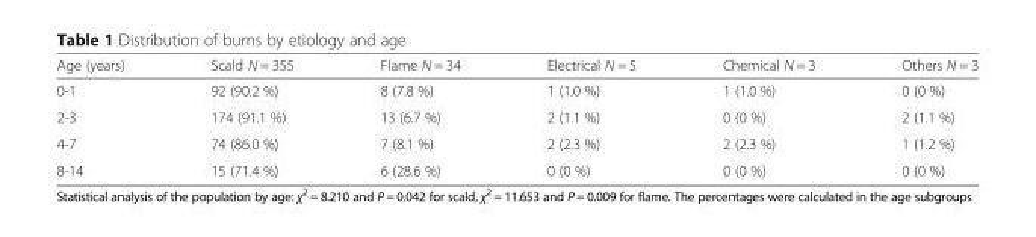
<table><thead><tr><td>Age (years)</td><td>Scald N = 355</td><td>Flame N = 34</td><td>Electrical N = 5</td><td>Chemical N = 3</td><td>Others N = 3</td></tr></thead><tbody><tr><td>0-1</td><td>92 (90.2 %)</td><td>8 (7.8 %)</td><td>1 (1.0 %)</td><td>1 (1.0 %)</td><td>0 (0 %)</td></tr><tr><td>2-3</td><td>174 (91.1 %)</td><td>13 (6.7 %)</td><td>2 (1.1 %)</td><td>0 (0 %)</td><td>2 (1.1 %)</td></tr><tr><td>4-7</td><td>74 (86.0 %)</td><td>7 (8.1 %)</td><td>2 (2.3 %)</td><td>2 (2.3 %)</td><td>1 (1.2 %)</td></tr><tr><td>8-14</td><td>15 (71.4 %)</td><td>6 (28.6 %)</td><td>0 (0 %)</td><td>0 (0 %)</td><td>0 (0 %)</td></tr></tbody></table>